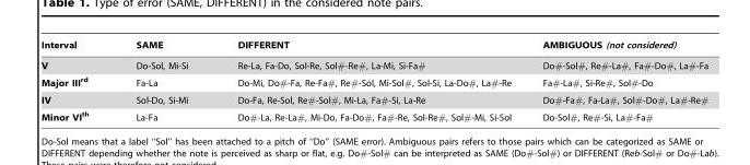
<table><thead><tr><td>Interval</td><td>SAME</td><td>DIFFERENT</td><td>AMBIGUOUS (not considered)</td></tr></thead><tbody><tr><td>V</td><td>Do-Sol, Mi-Si</td><td>Re-La, Fa-Do, Sol-Re, Sol#-Re#, La-Mi, Si-Fa#</td><td>Do#-Sol#, Re#-La#, Fa#-Do#, La#-Fa</td></tr><tr><td>Major III<sup>rd</sup></td><td>Fa-La</td><td>Do-Mi, Do#-Fa, Re-Fa#, Re#-Sol, Mi-Sol#, Sol-Si, La-Do#, La#-Re</td><td>Fa#-La#, Si-Re#, Sol#-Do</td></tr><tr><td>IV</td><td>Sol-Do, Si-Mi</td><td>Do-Fa, Re-Sol, Re#-Sol#, Mi-La, Fa#-Si, La-Re</td><td>Do#-Fa#, Fa-La#, Sol#-Do#, La#-Re#</td></tr><tr><td>Minor VI<sup>th</sup></td><td>La-Fa</td><td>Do#-La, Re-La#, Mi-Do, Fa-Do#, Fa#-Re, Sol-Re#, Sol#-Mi, Si-Sol</td><td>Do-Sol#, Re#-Si, La#-Fa#</td></tr></tbody></table>